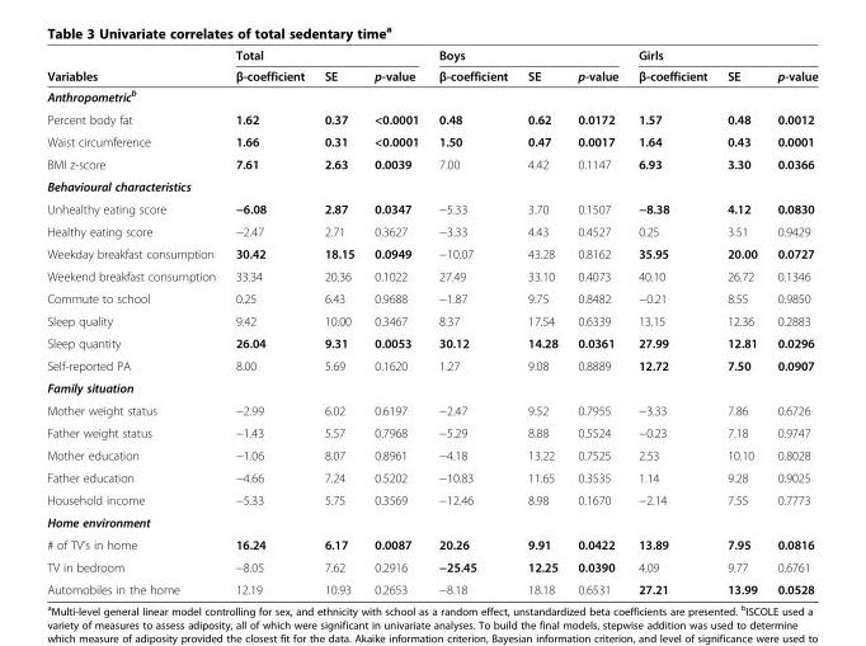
<table><thead><tr><td rowspan="2">Variables</td><td colspan="3">Total</td><td colspan="3">Boys</td><td colspan="3">Girls</td></tr><tr><td>β-coefficient</td><td>SE</td><td>p-value</td><td>β-coefficient</td><td>SE</td><td>p-value</td><td>β-coefficient</td><td>SE</td><td>p-value</td></tr></thead><tbody><tr><td colspan="10">Anthropometric<sup>b</sup></td></tr><tr><td>Percent body fat</td><td>1.62</td><td>0.37</td><td>&lt;0.0001</td><td>0.48</td><td>0.62</td><td>0.0172</td><td>1.57</td><td>0.48</td><td>0.0012</td></tr><tr><td>Waist circumference</td><td>1.66</td><td>0.31</td><td>&lt;0.0001</td><td>1.50</td><td>0.47</td><td>0.0017</td><td>1.64</td><td>0.43</td><td>0.0001</td></tr><tr><td>BMI z-score</td><td>7.61</td><td>2.63</td><td>0.0039</td><td>7.00</td><td>4.42</td><td>0.1147</td><td>6.93</td><td>3.30</td><td>0.0366</td></tr><tr><td colspan="10">Behavioural characteristics</td></tr><tr><td>Unhealthy eating score</td><td>−6.08</td><td>2.87</td><td>0.0347</td><td>−5.33</td><td>3.70</td><td>0.1507</td><td>−8.38</td><td>4.12</td><td>0.0830</td></tr><tr><td>Healthy eating score</td><td>−2.47</td><td>2.71</td><td>0.3627</td><td>−3.33</td><td>4.43</td><td>0.4527</td><td>0.25</td><td>3.51</td><td>0.9429</td></tr><tr><td>Weekday breakfast consumption</td><td>30.42</td><td>18.15</td><td>0.0949</td><td>−10.07</td><td>43.28</td><td>0.8162</td><td>35.95</td><td>20.00</td><td>0.0727</td></tr><tr><td>Weekend breakfast consumption</td><td>33.34</td><td>20.36</td><td>0.1022</td><td>27.49</td><td>33.10</td><td>0.4073</td><td>40.10</td><td>26.72</td><td>0.1346</td></tr><tr><td>Commute to school</td><td>0.25</td><td>6.43</td><td>0.9688</td><td>−1.87</td><td>9.75</td><td>0.8482</td><td>−0.21</td><td>8.55</td><td>0.9850</td></tr><tr><td>Sleep quality</td><td>9.42</td><td>10.00</td><td>0.3467</td><td>8.37</td><td>17.54</td><td>0.6339</td><td>13.15</td><td>12.36</td><td>0.2883</td></tr><tr><td>Sleep quantity</td><td>26.04</td><td>9.31</td><td>0.0053</td><td>30.12</td><td>14.28</td><td>0.0361</td><td>27.99</td><td>12.81</td><td>0.0296</td></tr><tr><td>Self-reported PA</td><td>8.00</td><td>5.69</td><td>0.1620</td><td>1.27</td><td>9.08</td><td>0.8889</td><td>12.72</td><td>7.50</td><td>0.0907</td></tr><tr><td colspan="10">Family situation</td></tr><tr><td>Mother weight status</td><td>−2.99</td><td>6.02</td><td>0.6197</td><td>−2.47</td><td>9.52</td><td>0.7955</td><td>−3.33</td><td>7.86</td><td>0.6726</td></tr><tr><td>Father weight status</td><td>−1.43</td><td>5.57</td><td>0.7968</td><td>−5.29</td><td>8.88</td><td>0.5524</td><td>−0.23</td><td>7.18</td><td>0.9747</td></tr><tr><td>Mother education</td><td>−1.06</td><td>8.07</td><td>0.8961</td><td>−4.18</td><td>13.22</td><td>0.7525</td><td>2.53</td><td>10.10</td><td>0.8028</td></tr><tr><td>Father education</td><td>−4.66</td><td>7.24</td><td>0.5202</td><td>−10.83</td><td>11.65</td><td>0.3535</td><td>1.14</td><td>9.28</td><td>0.9025</td></tr><tr><td>Household income</td><td>−5.33</td><td>5.75</td><td>0.3569</td><td>−12.46</td><td>8.98</td><td>0.1670</td><td>−2.14</td><td>7.55</td><td>0.7773</td></tr><tr><td colspan="10">Home environment</td></tr><tr><td># of TV’s in home</td><td>16.24</td><td>6.17</td><td>0.0087</td><td>20.26</td><td>9.91</td><td>0.0422</td><td>13.89</td><td>7.95</td><td>0.0816</td></tr><tr><td>TV in bedroom</td><td>−8.05</td><td>7.62</td><td>0.2916</td><td>−25.45</td><td>12.25</td><td>0.0390</td><td>4.09</td><td>9.77</td><td>0.6761</td></tr><tr><td>Automobiles in the home</td><td>12.19</td><td>10.93</td><td>0.2653</td><td>−8.18</td><td>18.18</td><td>0.6531</td><td>27.21</td><td>13.99</td><td>0.0528</td></tr></tbody></table>